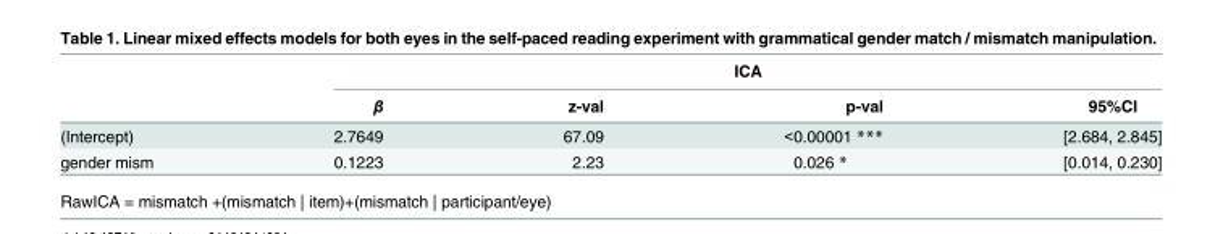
<table><thead><tr><td rowspan="2"></td><td colspan="4">ICA</td></tr><tr><td>β</td><td>z-val</td><td>p-val</td><td>95%CI</td></tr></thead><tbody><tr><td>(Intercept)</td><td>2.7649</td><td>67.09</td><td>&lt;0.00001 ***</td><td>[2.684, 2.845]</td></tr><tr><td>gender mism</td><td>0.1223</td><td>2.23</td><td>0.026 *</td><td>[0.014, 0.230]</td></tr></tbody></table>